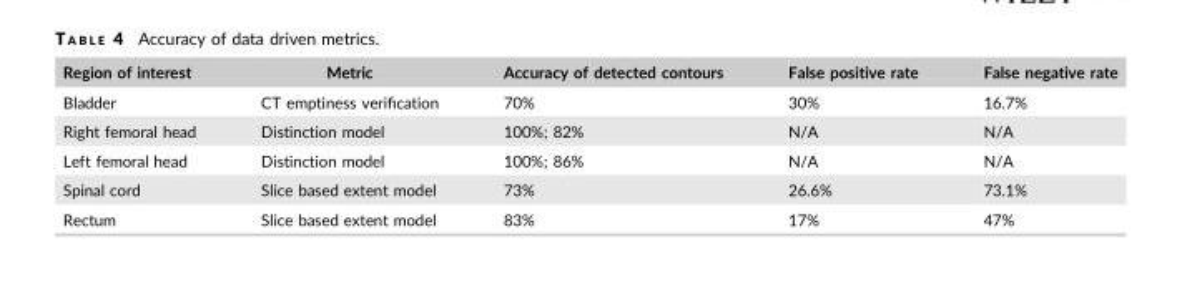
<table><thead><tr><td>Region of interest</td><td>Metric</td><td>Accuracy of detected contours</td><td>False positive rate</td><td>False negative rate</td></tr></thead><tbody><tr><td>Bladder</td><td>CT emptiness verification</td><td>70%</td><td>30%</td><td>16.7%</td></tr><tr><td>Right femoral head</td><td>Distinction model</td><td>100%; 82%</td><td>N/A</td><td>N/A</td></tr><tr><td>Left femoral head</td><td>Distinction model</td><td>100%; 86%</td><td>N/A</td><td>N/A</td></tr><tr><td>Spinal cord</td><td>Slice based extent model</td><td>73%</td><td>26.6%</td><td>73.1%</td></tr><tr><td>Rectum</td><td>Slice based extent model</td><td>83%</td><td>17%</td><td>47%</td></tr></tbody></table>